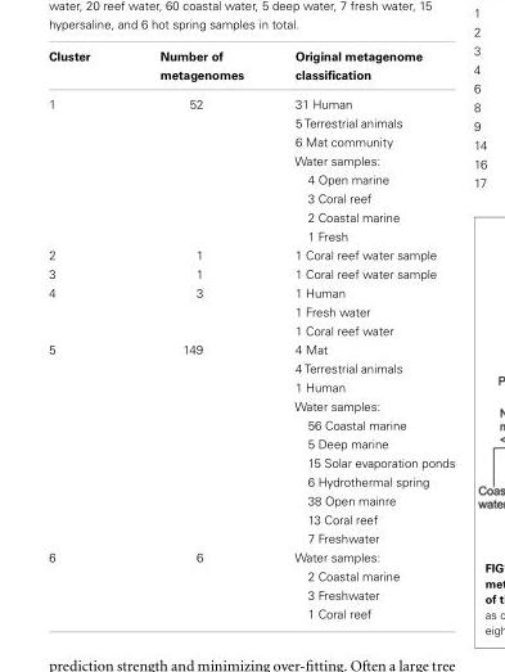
<table><thead><tr><td>Cluster</td><td>Number of metagenomes</td><td>Original metagenome classification</td></tr></thead><tbody><tr><td rowspan="8">1</td><td>52</td><td>31 Human</td></tr><tr><td></td><td>5 Terrestrial animals</td></tr><tr><td></td><td>6 Mat community</td></tr><tr><td></td><td>Water samples:</td></tr><tr><td></td><td>4 Open marine</td></tr><tr><td></td><td>3 Coral reef</td></tr><tr><td></td><td>2 Coastal marine</td></tr><tr><td></td><td>1 Fresh</td></tr><tr><td>2</td><td>1</td><td>1 Coral reef water sample</td></tr><tr><td>3</td><td>1</td><td>1 Coral reef water sample</td></tr><tr><td rowspan="3">4</td><td>3</td><td>1 Human</td></tr><tr><td></td><td>1 Fresh water</td></tr><tr><td></td><td>1 Coral reef water</td></tr><tr><td rowspan="11">5</td><td>149</td><td>4 Mat</td></tr><tr><td></td><td>4 Terrestrial animals</td></tr><tr><td></td><td>1 Human</td></tr><tr><td></td><td>Water samples:</td></tr><tr><td></td><td>56 Coastal marine</td></tr><tr><td></td><td>5 Deep marine</td></tr><tr><td></td><td>15 Solar evaporation ponds</td></tr><tr><td></td><td>6 Hydrothermal spring</td></tr><tr><td></td><td>38 Open mainre</td></tr><tr><td></td><td>13 Coral reef</td></tr><tr><td></td><td>7 Freshwater</td></tr><tr><td rowspan="4">6</td><td>6</td><td>Water samples:</td></tr><tr><td></td><td>2 Coastal marine</td></tr><tr><td></td><td>3 Freshwater</td></tr><tr><td></td><td>1 Coral reef</td></tr></tbody></table>